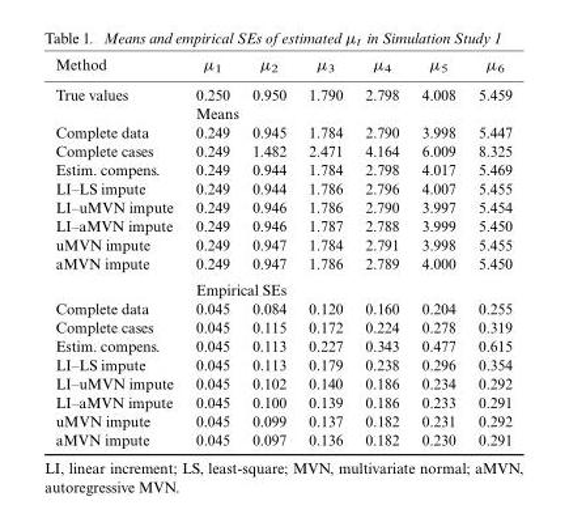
<table><thead><tr><td>Method</td><td>μ<sub>1</sub></td><td>μ<sub>2</sub></td><td>μ<sub>3</sub></td><td>μ<sub>4</sub></td><td>μ<sub>5</sub></td><td>μ<sub>6</sub></td></tr></thead><tbody><tr><td rowspan="2">True values</td><td>0.250</td><td>0.950</td><td>1.790</td><td>2.798</td><td>4.008</td><td>5.459</td></tr><tr><td colspan="6">Means</td></tr><tr><td>Complete data</td><td>0.249</td><td>0.945</td><td>1.784</td><td>2.790</td><td>3.998</td><td>5.447</td></tr><tr><td>Complete cases</td><td>0.249</td><td>1.482</td><td>2.471</td><td>4.164</td><td>6.009</td><td>8.325</td></tr><tr><td>Estim. compens.</td><td>0.249</td><td>0.944</td><td>1.784</td><td>2.798</td><td>4.017</td><td>5.469</td></tr><tr><td>LI–LS impute</td><td>0.249</td><td>0.944</td><td>1.786</td><td>2.796</td><td>4.007</td><td>5.455</td></tr><tr><td>LI–uMVN impute</td><td>0.249</td><td>0.946</td><td>1.786</td><td>2.790</td><td>3.997</td><td>5.454</td></tr><tr><td>LI–aMVN impute</td><td>0.249</td><td>0.946</td><td>1.787</td><td>2.788</td><td>3.999</td><td>5.450</td></tr><tr><td>uMVN impute</td><td>0.249</td><td>0.947</td><td>1.784</td><td>2.791</td><td>3.998</td><td>5.455</td></tr><tr><td rowspan="2">aMVN impute</td><td>0.249</td><td>0.947</td><td>1.786</td><td>2.789</td><td>4.000</td><td>5.450</td></tr><tr><td colspan="6">Empirical SEs</td></tr><tr><td>Complete data</td><td>0.045</td><td>0.084</td><td>0.120</td><td>0.160</td><td>0.204</td><td>0.255</td></tr><tr><td>Complete cases</td><td>0.045</td><td>0.115</td><td>0.172</td><td>0.224</td><td>0.278</td><td>0.319</td></tr><tr><td>Estim. compens.</td><td>0.045</td><td>0.113</td><td>0.227</td><td>0.343</td><td>0.477</td><td>0.615</td></tr><tr><td>LI–LS impute</td><td>0.045</td><td>0.113</td><td>0.179</td><td>0.238</td><td>0.296</td><td>0.354</td></tr><tr><td>LI–uMVN impute</td><td>0.045</td><td>0.102</td><td>0.140</td><td>0.186</td><td>0.234</td><td>0.292</td></tr><tr><td>LI–aMVN impute</td><td>0.045</td><td>0.100</td><td>0.139</td><td>0.186</td><td>0.233</td><td>0.291</td></tr><tr><td>uMVN impute</td><td>0.045</td><td>0.099</td><td>0.137</td><td>0.182</td><td>0.231</td><td>0.292</td></tr><tr><td>aMVN impute</td><td>0.045</td><td>0.097</td><td>0.136</td><td>0.182</td><td>0.230</td><td>0.291</td></tr></tbody></table>